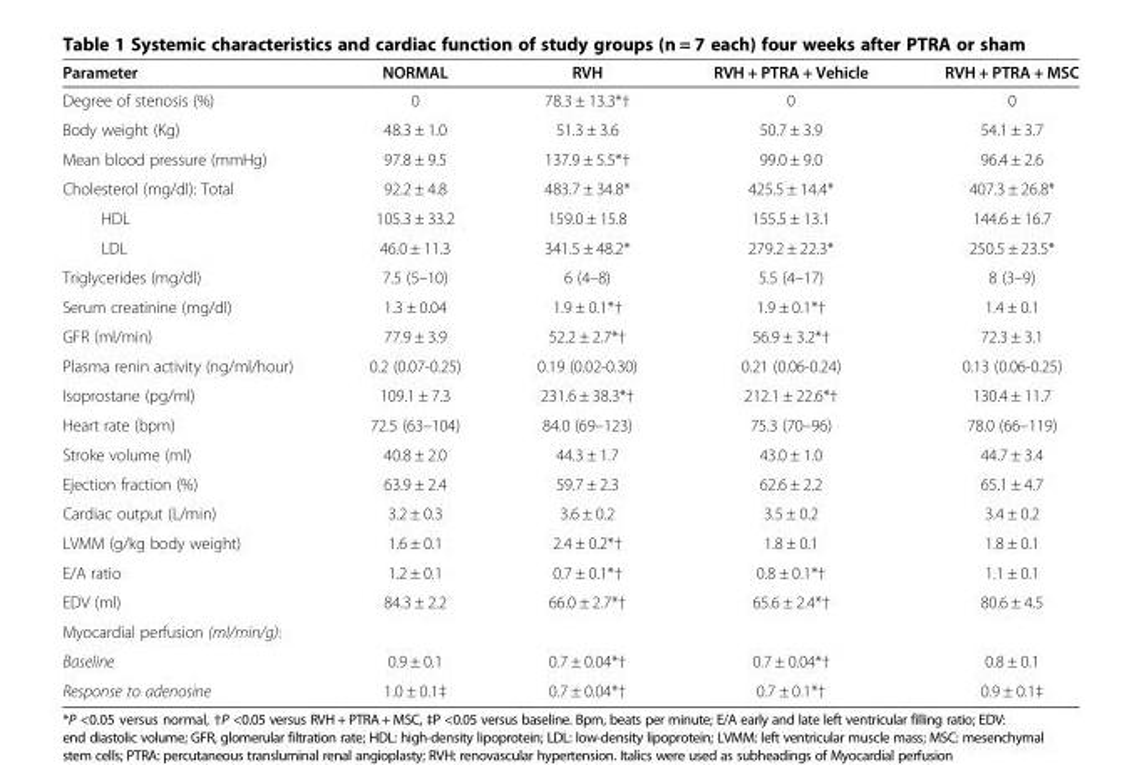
<table><thead><tr><td>Parameter</td><td>NORMAL</td><td>RVH</td><td>RVH + PTRA + Vehicle</td><td>RVH + PTRA + MSC</td></tr></thead><tbody><tr><td>Degree of stenosis (%)</td><td>0</td><td>78.3 ± 13.3*†</td><td>0</td><td>0</td></tr><tr><td>Body weight (Kg)</td><td>48.3 ± 1.0</td><td>51.3 ± 3.6</td><td>50.7 ± 3.9</td><td>54.1 ± 3.7</td></tr><tr><td>Mean blood pressure (mmHg)</td><td>97.8 ± 9.5</td><td>137.9 ± 5.5*†</td><td>99.0 ± 9.0</td><td>96.4 ± 2.6</td></tr><tr><td>Cholesterol (mg/dl): Total</td><td>92.2 ± 4.8</td><td>483.7 ± 34.8*</td><td>425.5 ± 14.4*</td><td>407.3 ± 26.8*</td></tr><tr><td>HDL</td><td>105.3 ± 33.2</td><td>159.0 ± 15.8</td><td>155.5 ± 13.1</td><td>144.6 ± 16.7</td></tr><tr><td>LDL</td><td>46.0 ± 11.3</td><td>341.5 ± 48.2*</td><td>279.2 ± 22.3*</td><td>250.5 ± 23.5*</td></tr><tr><td>Triglycerides (mg/dl)</td><td>7.5 (5–10)</td><td>6 (4–8)</td><td>5.5 (4–17)</td><td>8 (3–9)</td></tr><tr><td>Serum creatinine (mg/dl)</td><td>1.3 ± 0.04</td><td>1.9 ± 0.1*†</td><td>1.9 ± 0.1*†</td><td>1.4 ± 0.1</td></tr><tr><td>GFR (ml/min)</td><td>77.9 ± 3.9</td><td>52.2 ± 2.7*†</td><td>56.9 ± 3.2*†</td><td>72.3 ± 3.1</td></tr><tr><td>Plasma renin activity (ng/ml/hour)</td><td>0.2 (0.07-0.25)</td><td>0.19 (0.02-0.30)</td><td>0.21 (0.06-0.24)</td><td>0.13 (0.06-0.25)</td></tr><tr><td>Isoprostane (pg/ml)</td><td>109.1 ± 7.3</td><td>231.6 ± 38.3*†</td><td>212.1 ± 22.6*†</td><td>130.4 ± 11.7</td></tr><tr><td>Heart rate (bpm)</td><td>72.5 (63–104)</td><td>84.0 (69–123)</td><td>75.3 (70–96)</td><td>78.0 (66–119)</td></tr><tr><td>Stroke volume (ml)</td><td>40.8 ± 2.0</td><td>44.3 ± 1.7</td><td>43.0 ± 1.0</td><td>44.7 ± 3.4</td></tr><tr><td>Ejection fraction (%)</td><td>63.9 ± 2.4</td><td>59.7 ± 2.3</td><td>62.6 ± 2.2</td><td>65.1 ± 4.7</td></tr><tr><td>Cardiac output (L/min)</td><td>3.2 ± 0.3</td><td>3.6 ± 0.2</td><td>3.5 ± 0.2</td><td>3.4 ± 0.2</td></tr><tr><td>LVMM (g/kg body weight)</td><td>1.6 ± 0.1</td><td>2.4 ± 0.2*†</td><td>1.8 ± 0.1</td><td>1.8 ± 0.1</td></tr><tr><td>E/A ratio</td><td>1.2 ± 0.1</td><td>0.7 ± 0.1*†</td><td>0.8 ± 0.1*†</td><td>1.1 ± 0.1</td></tr><tr><td>EDV (ml)</td><td>84.3 ± 2.2</td><td>66.0 ± 2.7*†</td><td>65.6 ± 2.4*†</td><td>80.6 ± 4.5</td></tr><tr><td colspan="5">Myocardial perfusion (ml/min/g):</td></tr><tr><td>Baseline</td><td>0.9 ± 0.1</td><td>0.7 ± 0.04*†</td><td>0.7 ± 0.04*†</td><td>0.8 ± 0.1</td></tr><tr><td>Response to adenosine</td><td>1.0 ± 0.1‡</td><td>0.7 ± 0.04*†</td><td>0.7 ± 0.1*†</td><td>0.9 ± 0.1‡</td></tr></tbody></table>